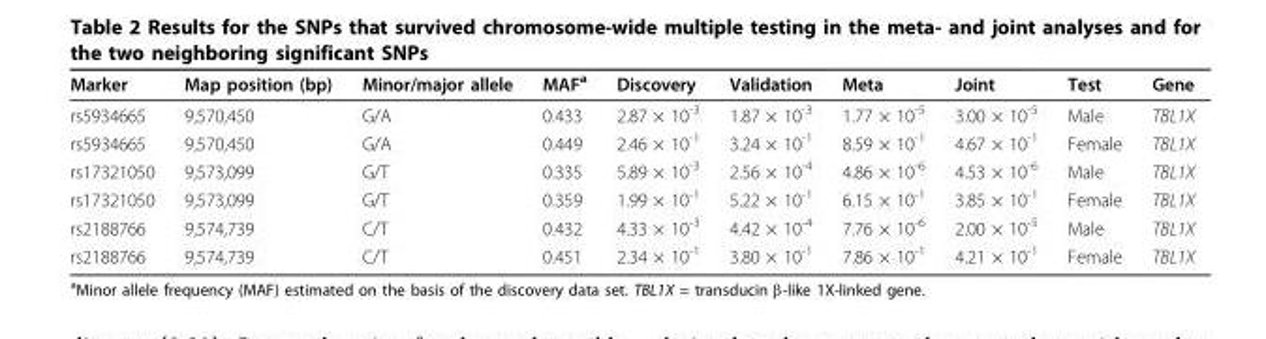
<table><thead><tr><td>Marker</td><td>Map position (bp)</td><td>Minor/major allele</td><td>MAF<sup>a</sup></td><td>Discovery</td><td>Validation</td><td>Meta</td><td>Joint</td><td>Test</td><td>Gene</td></tr></thead><tbody><tr><td>rs5934665</td><td>9,570,450</td><td>G/A</td><td>0.433</td><td>2.87 × 10<sup>-3</sup></td><td>1.87 × 10<sup>-3</sup></td><td>1.77 × 10<sup>-5</sup></td><td>3.00 × 10<sup>-5</sup></td><td>Male</td><td>TBL1X</td></tr><tr><td>rs5934665</td><td>9,570,450</td><td>G/A</td><td>0.449</td><td>2.46 × 10<sup>-1</sup></td><td>3.24 × 10<sup>-1</sup></td><td>8.59 × 10<sup>-1</sup></td><td>4.67 × 10<sup>-1</sup></td><td>Female</td><td>TBL1X</td></tr><tr><td>rs17321050</td><td>9,573,099</td><td>G/T</td><td>0.335</td><td>5.89 × 10<sup>-3</sup></td><td>2.56 × 10<sup>-4</sup></td><td>4.86 × 10<sup>-6</sup></td><td>4.53 × 10<sup>-6</sup></td><td>Male</td><td>TBL1X</td></tr><tr><td>rs17321050</td><td>9,573,099</td><td>G/T</td><td>0.359</td><td>1.99 × 10<sup>-1</sup></td><td>5.22 × 10<sup>-1</sup></td><td>6.15 × 10<sup>-1</sup></td><td>3.85 × 10<sup>-1</sup></td><td>Female</td><td>TBL1X</td></tr><tr><td>rs2188766</td><td>9,574,739</td><td>C/T</td><td>0.432</td><td>4.33 × 10<sup>-3</sup></td><td>4.42 × 10<sup>-4</sup></td><td>7.76 × 10<sup>-6</sup></td><td>2.00 × 10<sup>-5</sup></td><td>Male</td><td>TBL1X</td></tr><tr><td>rs2188766</td><td>9,574,739</td><td>C/T</td><td>0.451</td><td>2.34 × 10<sup>-1</sup></td><td>3.80 × 10<sup>-1</sup></td><td>7.86 × 10<sup>-1</sup></td><td>4.21 × 10<sup>-1</sup></td><td>Female</td><td>TBL1X</td></tr></tbody></table>